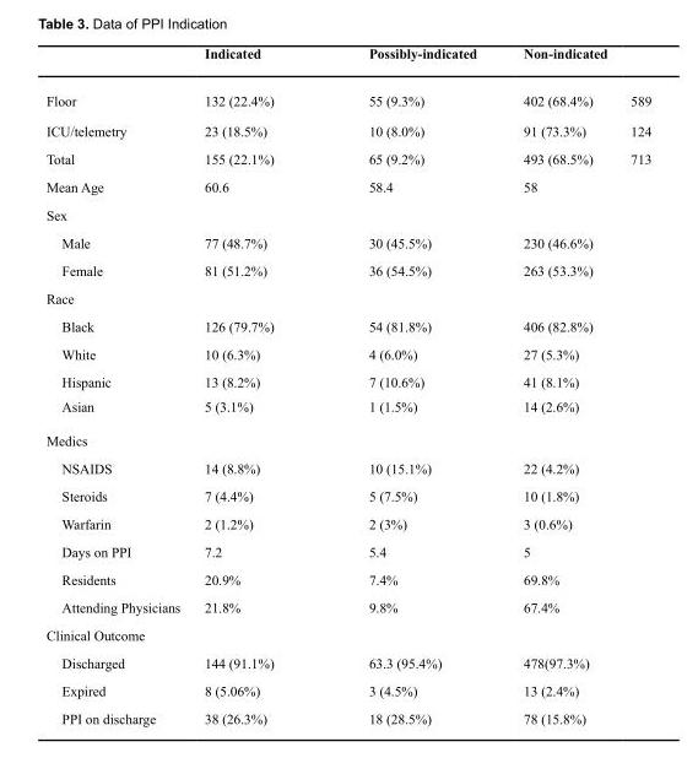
<table><thead><tr><td></td><td>Indicated</td><td>Possibly-indicated</td><td>Non-indicated</td><td></td></tr></thead><tbody><tr><td>Floor</td><td>132 (22.4%)</td><td>55 (9.3%)</td><td>402 (68.4%)</td><td>589</td></tr><tr><td>ICU/telemetry</td><td>23 (18.5%)</td><td>10 (8.0%)</td><td>91 (73.3%)</td><td>124</td></tr><tr><td>Total</td><td>155 (22.1%)</td><td>65 (9.2%)</td><td>493 (68.5%)</td><td>713</td></tr><tr><td>Mean Age</td><td>60.6</td><td>58.4</td><td>58</td><td></td></tr><tr><td colspan="5">Sex</td></tr><tr><td>Male</td><td>77 (48.7%)</td><td>30 (45.5%)</td><td>230 (46.6%)</td><td></td></tr><tr><td>Female</td><td>81 (51.2%)</td><td>36 (54.5%)</td><td>263 (53.3%)</td><td></td></tr><tr><td colspan="5">Race</td></tr><tr><td>Black</td><td>126 (79.7%)</td><td>54 (81.8%)</td><td>406 (82.8%)</td><td></td></tr><tr><td>White</td><td>10 (6.3%)</td><td>4 (6.0%)</td><td>27 (5.3%)</td><td></td></tr><tr><td>Hispanic</td><td>13 (8.2%)</td><td>7 (10.6%)</td><td>41 (8.1%)</td><td></td></tr><tr><td>Asian</td><td>5 (3.1%)</td><td>1 (1.5%)</td><td>14 (2.6%)</td><td></td></tr><tr><td colspan="5">Medics</td></tr><tr><td>NSAIDS</td><td>14 (8.8%)</td><td>10 (15.1%)</td><td>22 (4.2%)</td><td></td></tr><tr><td>Steroids</td><td>7 (4.4%)</td><td>5 (7.5%)</td><td>10 (1.8%)</td><td></td></tr><tr><td>Warfarin</td><td>2 (1.2%)</td><td>2 (3%)</td><td>3 (0.6%)</td><td></td></tr><tr><td>Days on PPI</td><td>7.2</td><td>5.4</td><td>5</td><td></td></tr><tr><td>Residents</td><td>20.9%</td><td>7.4%</td><td>69.8%</td><td></td></tr><tr><td>Attending Physicians</td><td>21.8%</td><td>9.8%</td><td>67.4%</td><td></td></tr><tr><td colspan="5">Clinical Outcome</td></tr><tr><td>Discharged</td><td>144 (91.1%)</td><td>63.3 (95.4%)</td><td>478(97.3%)</td><td></td></tr><tr><td>Expired</td><td>8 (5.06%)</td><td>3 (4.5%)</td><td>13 (2.4%)</td><td></td></tr><tr><td>PPI on discharge</td><td>38 (26.3%)</td><td>18 (28.5%)</td><td>78 (15.8%)</td><td></td></tr></tbody></table>